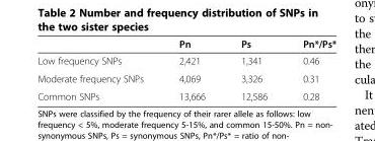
<table><thead><tr><td></td><td>Pn</td><td>Ps</td><td>Pn*/Ps*</td></tr></thead><tbody><tr><td>Low frequency SNPs</td><td>2,421</td><td>1,341</td><td>0.46</td></tr><tr><td>Moderate frequency SNPs</td><td>4,069</td><td>3,326</td><td>0.31</td></tr><tr><td>Common SNPs</td><td>13,666</td><td>12,586</td><td>0.28</td></tr></tbody></table>